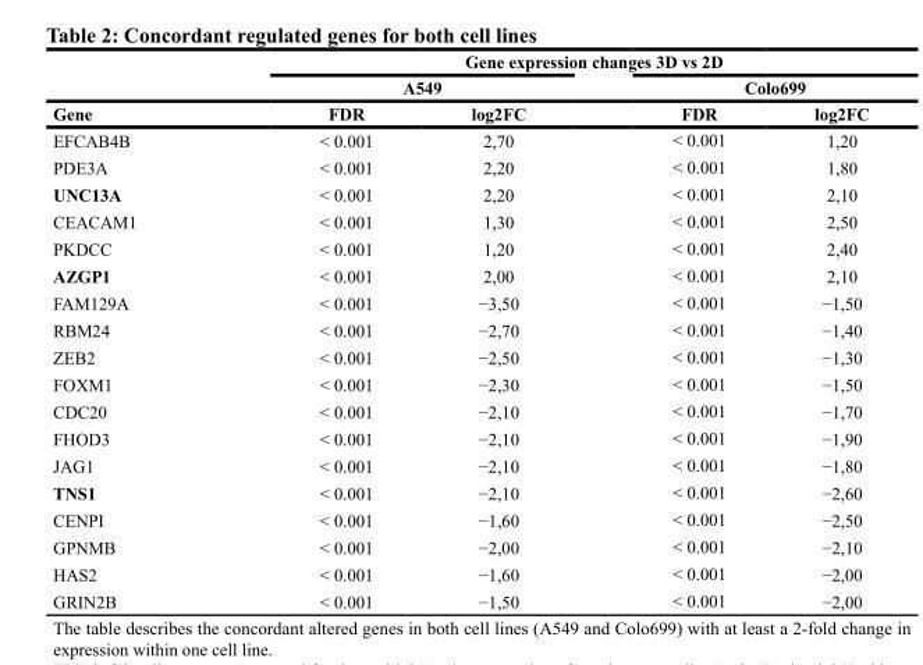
<table><thead><tr><td rowspan="3">Gene</td><td colspan="4">Gene expression changes 3D vs 2D</td></tr><tr><td colspan="2">A549</td><td colspan="2">Colo699</td></tr><tr><td>FDR</td><td>log2FC</td><td>FDR</td><td>log2FC</td></tr></thead><tbody><tr><td>EFCAB4B</td><td>&lt; 0.001</td><td>2,70</td><td>&lt; 0.001</td><td>1,20</td></tr><tr><td>PDE3A</td><td>&lt; 0.001</td><td>2,20</td><td>&lt; 0.001</td><td>1,80</td></tr><tr><td>UNC13A</td><td>&lt; 0.001</td><td>2,20</td><td>&lt; 0.001</td><td>2,10</td></tr><tr><td>CEACAM1</td><td>&lt; 0.001</td><td>1,30</td><td>&lt; 0.001</td><td>2,50</td></tr><tr><td>PKDCC</td><td>&lt; 0.001</td><td>1,20</td><td>&lt; 0.001</td><td>2,40</td></tr><tr><td>AZGP1</td><td>&lt; 0.001</td><td>2,00</td><td>&lt; 0.001</td><td>2,10</td></tr><tr><td>FAM129A</td><td>&lt; 0.001</td><td>−3,50</td><td>&lt; 0.001</td><td>−1,50</td></tr><tr><td>RBM24</td><td>&lt; 0.001</td><td>−2,70</td><td>&lt; 0.001</td><td>−1,40</td></tr><tr><td>ZEB2</td><td>&lt; 0.001</td><td>−2,50</td><td>&lt; 0.001</td><td>−1,30</td></tr><tr><td>FOXM1</td><td>&lt; 0.001</td><td>−2,30</td><td>&lt; 0.001</td><td>−1,50</td></tr><tr><td>CDC20</td><td>&lt; 0.001</td><td>−2,10</td><td>&lt; 0.001</td><td>−1,70</td></tr><tr><td>FHOD3</td><td>&lt; 0.001</td><td>−2,10</td><td>&lt; 0.001</td><td>−1,90</td></tr><tr><td>JAG1</td><td>&lt; 0.001</td><td>−2,10</td><td>&lt; 0.001</td><td>−1,80</td></tr><tr><td>TNS1</td><td>&lt; 0.001</td><td>−2,10</td><td>&lt; 0.001</td><td>−2,60</td></tr><tr><td>CENPI</td><td>&lt; 0.001</td><td>−1,60</td><td>&lt; 0.001</td><td>−2,50</td></tr><tr><td>GPNMB</td><td>&lt; 0.001</td><td>−2,00</td><td>&lt; 0.001</td><td>−2,10</td></tr><tr><td>HAS2</td><td>&lt; 0.001</td><td>−1,60</td><td>&lt; 0.001</td><td>−2,00</td></tr><tr><td>GRIN2B</td><td>&lt; 0.001</td><td>−1,50</td><td>&lt; 0.001</td><td>−2,00</td></tr></tbody></table>